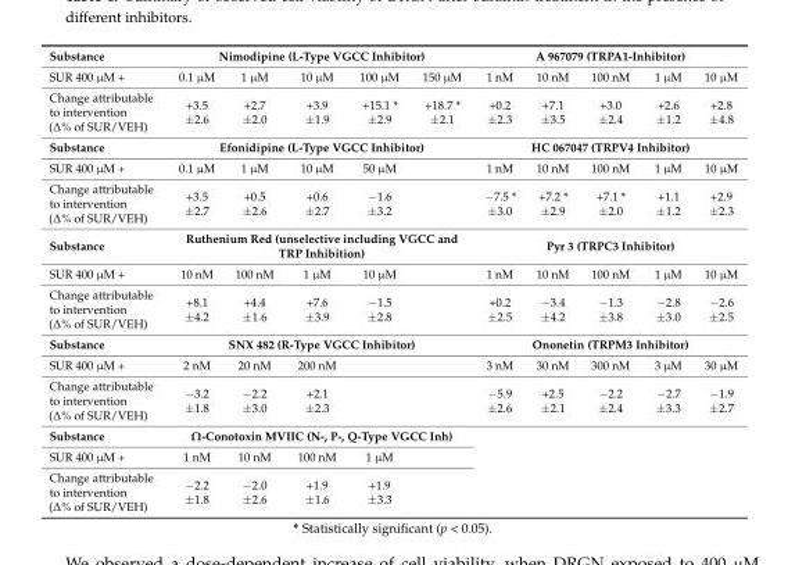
<table><tbody><tr><td>Substance</td><td colspan="5">Nimodipine (L-Type VGCC Inhibitor)</td><td colspan="5">A 967079 (TRPA1-Inhibitor)</td></tr><tr><td>SUR 400 µM +</td><td>0.1 µM</td><td>1 µM</td><td>10 µM</td><td>100 µM</td><td>150 µM</td><td>1 nM</td><td>10 nM</td><td>100 nM</td><td>1 µM</td><td>10 µM</td></tr><tr><td>Change attributable to intervention (∆% of SUR/VEH)</td><td>+3.5 ±2.6</td><td>+2.7 ±2.0</td><td>+3.9 ±1.9</td><td>+15.1 * ±2.9</td><td>+18.7 * ±2.1</td><td>+0.2 ±2.3</td><td>+7.1 ±3.5</td><td>+3.0 ±2.4</td><td>+2.6 ±1.2</td><td>+2.8 ±4.8</td></tr><tr><td>Substance</td><td colspan="5">Efonidipine (L-Type VGCC Inhibitor)</td><td colspan="5">HC 067047 (TRPV4 Inhibitor)</td></tr><tr><td>SUR 400 µM +</td><td>0.1 µM</td><td>1 µM</td><td>10 µM</td><td>50 µM</td><td></td><td>1 nM</td><td>10 nM</td><td>100 nM</td><td>1 µM</td><td>10 µM</td></tr><tr><td>Change attributable to intervention (∆% of SUR/VEH)</td><td>+3.5 ±2.7</td><td>+0.5 ±2.6</td><td>+0.6 ±2.7</td><td>−1.6 ±3.2</td><td></td><td>−7.5 * ±3.0</td><td>+7.2 * ±2.9</td><td>+7.1 * ±2.0</td><td>+1.1 ±1.2</td><td>+2.9 ±2.3</td></tr><tr><td>Substance</td><td colspan="5">Ruthenium Red (unselective including VGCC and TRP Inhibition)</td><td colspan="5">Pyr 3 (TRPC3 Inhibitor)</td></tr><tr><td>SUR 400 µM +</td><td>10 nM</td><td>100 nM</td><td>1 µM</td><td>10 µM</td><td></td><td>1 nM</td><td>10 nM</td><td>100 nM</td><td>1 µM</td><td>10 µM</td></tr><tr><td>Change attributable to intervention (∆% of SUR/VEH)</td><td>+8.1 ±4.2</td><td>+4.4 ±1.6</td><td>+7.6 ±3.9</td><td>−1.5 ±2.8</td><td></td><td>+0.2 ±2.5</td><td>−3.4 ±4.2</td><td>−1.3 ±3.8</td><td>−2.8 ±3.0</td><td>−2.6 ±2.5</td></tr><tr><td>Substance</td><td colspan="5">SNX 482 (R-Type VGCC Inhibitor)</td><td colspan="5">Ononetin (TRPM3 Inhibitor)</td></tr><tr><td>SUR 400 µM +</td><td>2 nM</td><td>20 nM</td><td>200 nM</td><td></td><td></td><td>3 nM</td><td>30 nM</td><td>300 nM</td><td>3 µM</td><td>30 µM</td></tr><tr><td>Change attributable to intervention (∆% of SUR/VEH)</td><td>−3.2 ±1.8</td><td>−2.2 ±3.0</td><td>+2.1 ±2.3</td><td></td><td></td><td>−5.9 ±2.6</td><td>+2.5 ±2.1</td><td>−2.2 ±2.4</td><td>−2.7 ±3.3</td><td>−1.9 ±2.7</td></tr><tr><td>Substance</td><td colspan="5">Ω-Conotoxin MVIIC (N-, P-, Q-Type VGCC Inh)</td><td colspan="5"></td></tr><tr><td>SUR 400 µM +</td><td>1 nM</td><td>10 nM</td><td>100 nM</td><td>1 µM</td><td></td><td></td><td></td><td></td><td></td><td></td></tr><tr><td>Change attributable to intervention (∆% of SUR/VEH)</td><td>−2.2 ±1.8</td><td>−2.0 ±2.6</td><td>+1.9 ±1.6</td><td>+1.9 ±3.3</td><td></td><td></td><td></td><td></td><td></td><td></td></tr></tbody></table>